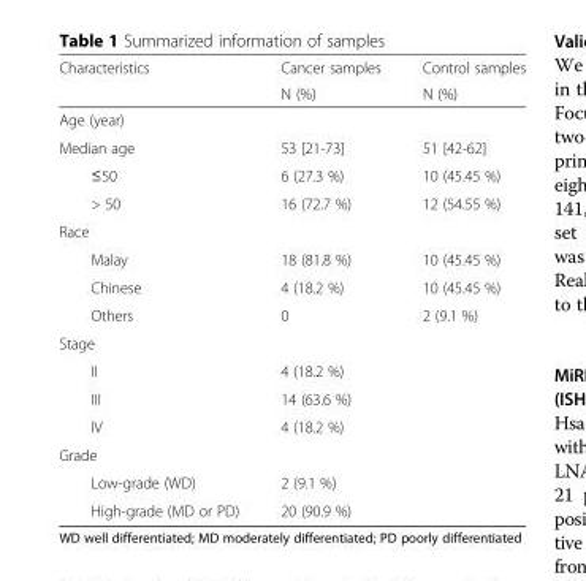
<table><thead><tr><td rowspan="2">Characteristics</td><td rowspan="2">Cancer samples N (%)</td><td rowspan="2">Control samples N (%)</td></tr><tr></tr></thead><tbody><tr><td colspan="3">Age (year)</td></tr><tr><td>Median age</td><td>53 [21-73]</td><td>51 [42-62]</td></tr><tr><td>≤50</td><td>6 (27.3 %)</td><td>10 (45.45 %)</td></tr><tr><td>&gt; 50</td><td>16 (72.7 %)</td><td>12 (54.55 %)</td></tr><tr><td colspan="3">Race</td></tr><tr><td>Malay</td><td>18 (81.8 %)</td><td>10 (45.45 %)</td></tr><tr><td>Chinese</td><td>4 (18.2 %)</td><td>10 (45.45 %)</td></tr><tr><td>Others</td><td>0</td><td>2 (9.1 %)</td></tr><tr><td colspan="3">Stage</td></tr><tr><td>II</td><td>4 (18.2 %)</td><td></td></tr><tr><td>III</td><td>14 (63.6 %)</td><td></td></tr><tr><td>IV</td><td>4 (18.2 %)</td><td></td></tr><tr><td colspan="3">Grade</td></tr><tr><td>Low-grade (WD)</td><td>2 (9.1 %)</td><td></td></tr><tr><td>High-grade (MD or PD)</td><td>20 (90.9 %)</td><td></td></tr></tbody></table>